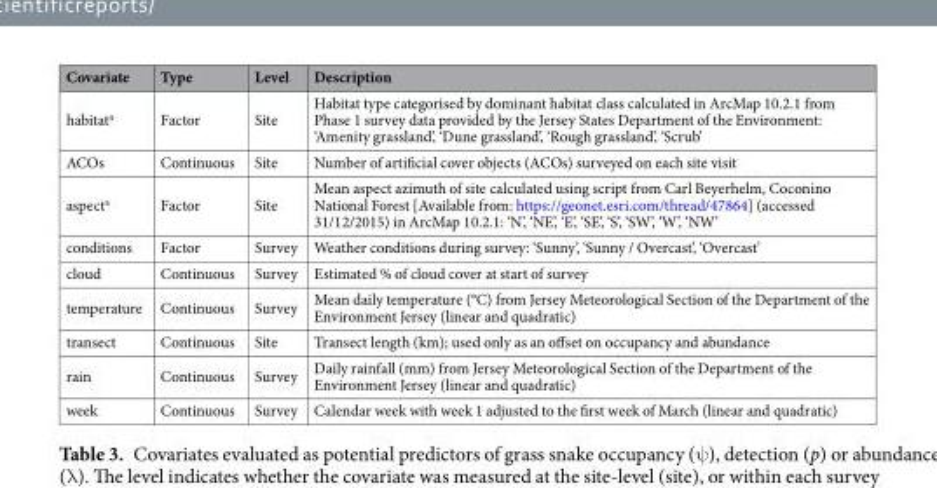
<table><thead><tr><td>Covariate</td><td>Type</td><td>Level</td><td>Description</td></tr></thead><tbody><tr><td>habitat<sup>a</sup></td><td>Factor</td><td>Site</td><td>Habitat type categorised by dominant habitat class calculated in ArcMap 10.2.1 from Phase 1 survey data provided by the Jersey States Department of the Environment: ‘Amenity grassland’, ‘Dune grassland’, ‘Rough grassland’, ‘Scrub’</td></tr><tr><td>ACOs</td><td>Continuous</td><td>Site</td><td>Number of artificial cover objects (ACOs) surveyed on each site visit</td></tr><tr><td>aspect<sup>a</sup></td><td>Factor</td><td>Site</td><td>Mean aspect azimuth of site calculated using script from Carl Beyerhelm, Coconino National Forest [Available from: https://geonet.esri.com/thread/47864] (accessed 31/12/2015) in ArcMap 10.2.1: ‘N’, ‘NE’, ‘E’, ‘SE’, ‘S’, ‘SW’, ‘W’, ‘NW’</td></tr><tr><td>conditions</td><td>Factor</td><td>Survey</td><td>Weather conditions during survey: ‘Sunny’, ‘Sunny / Overcast’, ‘Overcast’</td></tr><tr><td>cloud</td><td>Continuous</td><td>Survey</td><td>Estimated % of cloud cover at start of survey</td></tr><tr><td>temperature</td><td>Continuous</td><td>Survey</td><td>Mean daily temperature (°C) from Jersey Meteorological Section of the Department of the Environment Jersey (linear and quadratic)</td></tr><tr><td>transect</td><td>Continuous</td><td>Site</td><td>Transect length (km); used only as an offset on occupancy and abundance</td></tr><tr><td>rain</td><td>Continuous</td><td>Survey</td><td>Daily rainfall (mm) from Jersey Meteorological Section of the Department of the Environment Jersey (linear and quadratic)</td></tr><tr><td>week</td><td>Continuous</td><td>Survey</td><td>Calendar week with week 1 adjusted to the first week of March (linear and quadratic)</td></tr></tbody></table>